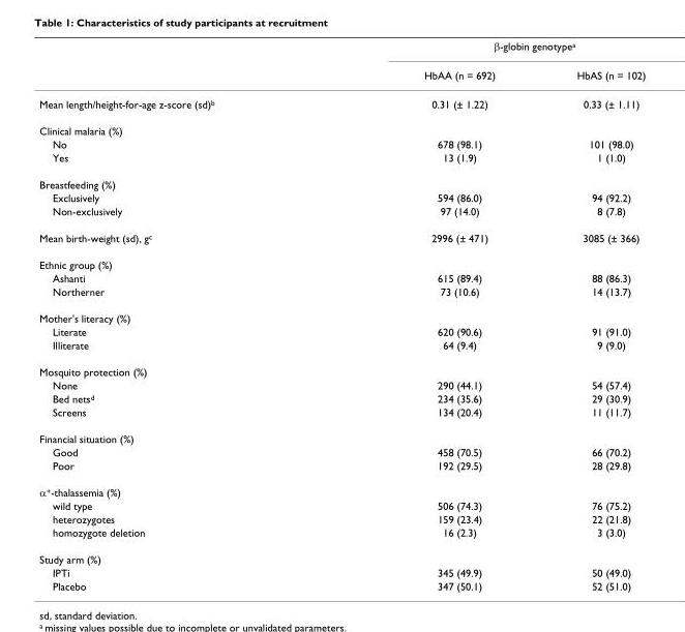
<table><thead><tr><td rowspan="2"></td><td colspan="2">β-globin genotype<sup>a</sup></td></tr><tr><td>HbAA (n = 692)</td><td>HbAS (n = 102)</td></tr></thead><tbody><tr><td>Mean length/height-for-age z-score (sd)<sup>b</sup></td><td>0.31 (± 1.22)</td><td>0.33 (± 1.11)</td></tr><tr><td colspan="3">Clinical malaria (%)</td></tr><tr><td>No</td><td>678 (98.1)</td><td>101 (98.0)</td></tr><tr><td>Yes</td><td>13 (1.9)</td><td>1 (1.0)</td></tr><tr><td colspan="3">Breastfeeding (%)</td></tr><tr><td>Exclusively</td><td>594 (86.0)</td><td>94 (92.2)</td></tr><tr><td>Non-exclusively</td><td>97 (14.0)</td><td>8 (7.8)</td></tr><tr><td>Mean birth-weight (sd), g<sup>c</sup></td><td>2996 (± 471)</td><td>3085 (± 366)</td></tr><tr><td colspan="3">Ethnic group (%)</td></tr><tr><td>Ashanti</td><td>615 (89.4)</td><td>88 (86.3)</td></tr><tr><td>Northerner</td><td>73 (10.6)</td><td>14 (13.7)</td></tr><tr><td colspan="3">Mother&#x27;s literacy (%)</td></tr><tr><td>Literate</td><td>620 (90.6)</td><td>91 (91.0)</td></tr><tr><td>Illiterate</td><td>64 (9.4)</td><td>9 (9.0)</td></tr><tr><td colspan="3">Mosquito protection (%)</td></tr><tr><td>None</td><td>290 (44.1)</td><td>54 (57.4)</td></tr><tr><td>Bed nets<sup>d</sup></td><td>234 (35.6)</td><td>29 (30.9)</td></tr><tr><td>Screens</td><td>134 (20.4)</td><td>11 (11.7)</td></tr><tr><td colspan="3">Financial situation (%)</td></tr><tr><td>Good</td><td>458 (70.5)</td><td>66 (70.2)</td></tr><tr><td>Poor</td><td>192 (29.5)</td><td>28 (29.8)</td></tr><tr><td colspan="3">α<sup>+</sup>-thalassemia (%)</td></tr><tr><td>wild type</td><td>506 (74.3)</td><td>76 (75.2)</td></tr><tr><td>heterozygotes</td><td>159 (23.4)</td><td>22 (21.8)</td></tr><tr><td>homozygote deletion</td><td>16 (2.3)</td><td>3 (3.0)</td></tr><tr><td colspan="3">Study arm (%)</td></tr><tr><td>IPTi</td><td>345 (49.9)</td><td>50 (49.0)</td></tr><tr><td>Placebo</td><td>347 (50.1)</td><td>52 (51.0)</td></tr></tbody></table>